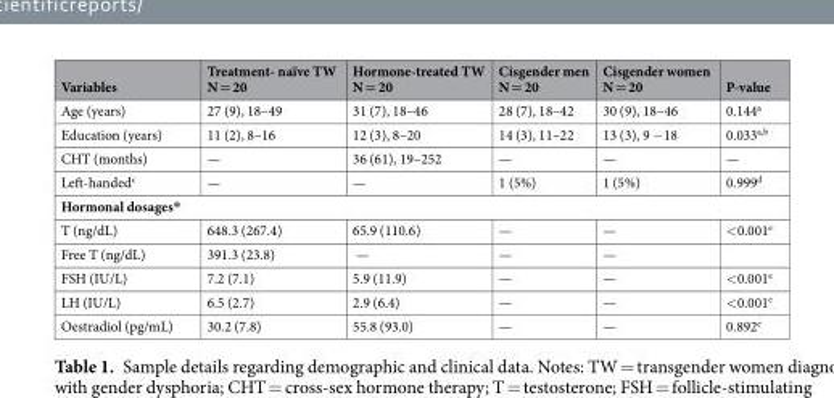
<table><thead><tr><td>Variables</td><td>Treatment- naïve TW N = 20</td><td>Hormone-treated TW N = 20</td><td>Cisgender men N = 20</td><td>Cisgender women N = 20</td><td>P-value</td></tr></thead><tbody><tr><td>Age (years)</td><td>27 (9), 18–49</td><td>31 (7), 18–46</td><td>28 (7), 18–42</td><td>30 (9), 18–46</td><td>0.144<sup>a</sup></td></tr><tr><td>Education (years)</td><td>11 (2), 8–16</td><td>12 (3), 8–20</td><td>14 (3), 11–22</td><td>13 (3), 9 −18</td><td>0.033<sup>a,b</sup></td></tr><tr><td>CHT (months)</td><td>—</td><td>36 (61), 19–252</td><td>—</td><td>—</td><td>—</td></tr><tr><td>Left-handed<sup>c</sup></td><td>—</td><td>—</td><td>1 (5%)</td><td>1 (5%)</td><td>0.999<sup>d</sup></td></tr><tr><td colspan="6">Hormonal dosages*</td></tr><tr><td>T (ng/dL)</td><td>648.3 (267.4)</td><td>65.9 (110.6)</td><td>—</td><td>—</td><td>&lt;0.001<sup>e</sup></td></tr><tr><td>Free T (ng/dL)</td><td>391.3 (23.8)</td><td>—</td><td>—</td><td>—</td><td></td></tr><tr><td>FSH (IU/L)</td><td>7.2 (7.1)</td><td>5.9 (11.9)</td><td>—</td><td>—</td><td>&lt;0.001<sup>e</sup></td></tr><tr><td>LH (IU/L)</td><td>6.5 (2.7)</td><td>2.9 (6.4)</td><td>—</td><td>—</td><td>&lt;0.001<sup>e</sup></td></tr><tr><td>Oestradiol (pg/mL)</td><td>30.2 (7.8)</td><td>55.8 (93.0)</td><td>—</td><td>—</td><td>0.892<sup>e</sup></td></tr></tbody></table>